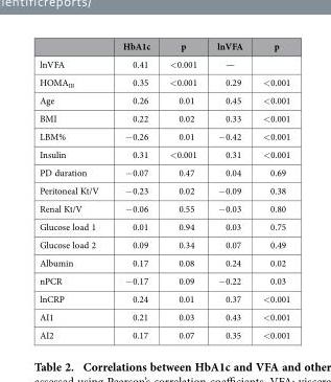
<table><thead><tr><td></td><td>HbA1c</td><td>p</td><td>lnVFA</td><td>p</td></tr></thead><tbody><tr><td>lnVFA</td><td>0.41</td><td>&lt;0.001</td><td>—</td><td></td></tr><tr><td>HOMA<sub>IR</sub></td><td>0.35</td><td>&lt;0.001</td><td>0.29</td><td>&lt;0.001</td></tr><tr><td>Age</td><td>0.26</td><td>0.01</td><td>0.45</td><td>&lt;0.001</td></tr><tr><td>BMI</td><td>0.22</td><td>0.02</td><td>0.33</td><td>&lt;0.001</td></tr><tr><td>LBM%</td><td>− 0.26</td><td>0.01</td><td>− 0.42</td><td>&lt;0.001</td></tr><tr><td>Insulin</td><td>0.31</td><td>&lt;0.001</td><td>0.31</td><td>&lt;0.001</td></tr><tr><td>PD duration</td><td>− 0.07</td><td>0.47</td><td>0.04</td><td>0.69</td></tr><tr><td>Peritoneal Kt/V</td><td>− 0.23</td><td>0.02</td><td>− 0.09</td><td>0.38</td></tr><tr><td>Renal Kt/V</td><td>− 0.06</td><td>0.55</td><td>− 0.03</td><td>0.80</td></tr><tr><td>Glucose load 1</td><td>0.01</td><td>0.94</td><td>0.03</td><td>0.75</td></tr><tr><td>Glucose load 2</td><td>0.09</td><td>0.34</td><td>0.07</td><td>0.49</td></tr><tr><td>Albumin</td><td>0.17</td><td>0.08</td><td>0.24</td><td>0.02</td></tr><tr><td>nPCR</td><td>− 0.17</td><td>0.09</td><td>− 0.22</td><td>0.03</td></tr><tr><td>lnCRP</td><td>0.24</td><td>0.01</td><td>0.37</td><td>&lt;0.001</td></tr><tr><td>AI1</td><td>0.21</td><td>0.03</td><td>0.43</td><td>&lt;0.001</td></tr><tr><td>AI2</td><td>0.17</td><td>0.07</td><td>0.35</td><td>&lt;0.001</td></tr></tbody></table>